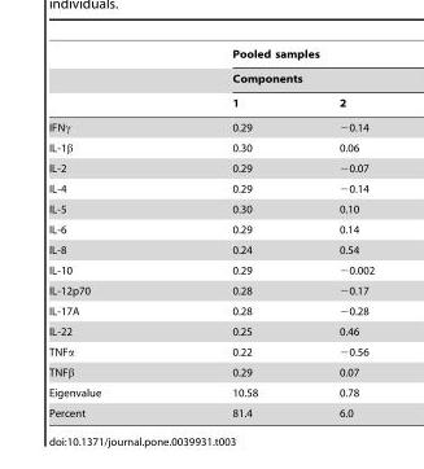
<table><thead><tr><td rowspan="3"></td><td rowspan="2" colspan="2">Pooled samples Components</td></tr><tr></tr><tr><td>1</td><td>2</td></tr></thead><tbody><tr><td>IFNγ</td><td>0.29</td><td>−0.14</td></tr><tr><td>IL-1β</td><td>0.30</td><td>0.06</td></tr><tr><td>IL-2</td><td>0.29</td><td>−0.07</td></tr><tr><td>IL-4</td><td>0.29</td><td>−0.14</td></tr><tr><td>IL-5</td><td>0.30</td><td>0.10</td></tr><tr><td>IL-6</td><td>0.29</td><td>0.14</td></tr><tr><td>IL-8</td><td>0.24</td><td>0.54</td></tr><tr><td>IL-10</td><td>0.29</td><td>−0.002</td></tr><tr><td>IL-12p70</td><td>0.28</td><td>−0.17</td></tr><tr><td>IL-17A</td><td>0.28</td><td>−0.28</td></tr><tr><td>IL-22</td><td>0.25</td><td>0.46</td></tr><tr><td>TNFα</td><td>0.22</td><td>−0.56</td></tr><tr><td>TNFβ</td><td>0.29</td><td>0.07</td></tr><tr><td>Eigenvalue</td><td>10.58</td><td>0.78</td></tr><tr><td>Percent</td><td>81.4</td><td>6.0</td></tr></tbody></table>